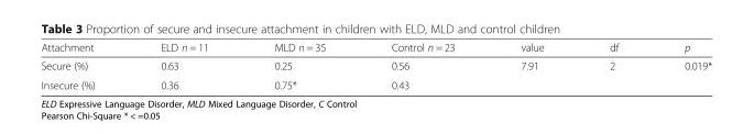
<table><thead><tr><td>Attachment</td><td>ELD n = 11</td><td>MLD n = 35</td><td>Control n = 23</td><td>value</td><td>df</td><td>p</td></tr></thead><tbody><tr><td>Secure (%)</td><td>0.63</td><td>0.25</td><td>0.56</td><td rowspan="2">7.91</td><td rowspan="2">2</td><td rowspan="2">0.019*</td></tr><tr><td>Insecure (%)</td><td>0.36</td><td>0.75*</td><td>0.43</td></tr></tbody></table>